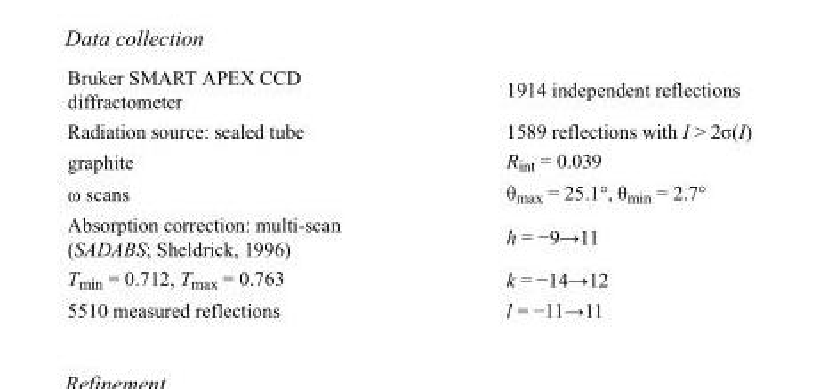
<table><tbody><tr><td>Bruker SMART APEX CCD diffractometer</td><td>1914 independent reflections</td></tr><tr><td>Radiation source: sealed tube</td><td>1589 reflections with I &gt; 2σ(I)</td></tr><tr><td>graphite</td><td>R<sub>int</sub> = 0.039</td></tr><tr><td>ω scans</td><td>θ<sub>max</sub> = 25.1°, θ<sub>min</sub> = 2.7°</td></tr><tr><td>Absorption correction: multi-scan (SADABS; Sheldrick, 1996)</td><td>h = −9→11</td></tr><tr><td>T<sub>min</sub> = 0.712, T<sub>max</sub> = 0.763</td><td>k = −14→12</td></tr><tr><td>5510 measured reflections</td><td>l = −11→11</td></tr></tbody></table>